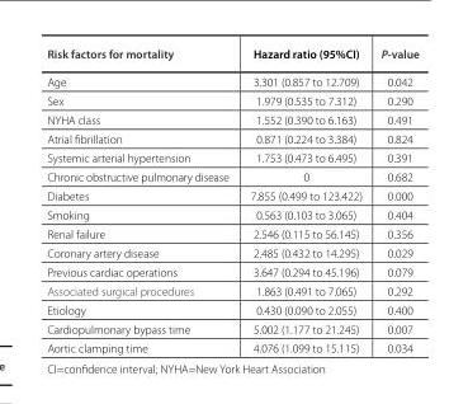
<table><thead><tr><td>Risk factors for mortality</td><td>Hazard ratio (95%CI)</td><td>P-value</td></tr></thead><tbody><tr><td>Age</td><td>3.301 (0.857 to 12.709)</td><td>0.042</td></tr><tr><td>Sex</td><td>1.979 (0.535 to 7.312)</td><td>0.290</td></tr><tr><td>NYHA class</td><td>1.552 (0.390 to 6.163)</td><td>0.491</td></tr><tr><td>Atrial fibrillation</td><td>0.871 (0.224 to 3.384)</td><td>0.824</td></tr><tr><td>Systemic arterial hypertension</td><td>1.753 (0.473 to 6.495)</td><td>0.391</td></tr><tr><td>Chronic obstructive pulmonary disease</td><td>0</td><td>0.682</td></tr><tr><td>Diabetes</td><td>7.855 (0.499 to 123.422)</td><td>0.000</td></tr><tr><td>Smoking</td><td>0.563 (0.103 to 3.065)</td><td>0.404</td></tr><tr><td>Renal failure</td><td>2.546 (0.115 to 56.145)</td><td>0.356</td></tr><tr><td>Coronary artery disease</td><td>2.485 (0.432 to 14.295)</td><td>0.029</td></tr><tr><td>Previous cardiac operations</td><td>3.647 (0.294 to 45.196)</td><td>0.079</td></tr><tr><td>Associated surgical procedures</td><td>1.863 (0.491 to 7.065)</td><td>0.292</td></tr><tr><td>Etiology</td><td>0.430 (0.090 to 2.055)</td><td>0.400</td></tr><tr><td>Cardiopulmonary bypass time</td><td>5.002 (1.177 to 21.245)</td><td>0.007</td></tr><tr><td>Aortic clamping time</td><td>4.076 (1.099 to 15.115)</td><td>0.034</td></tr></tbody></table>